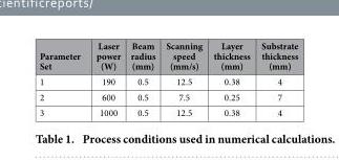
<table><thead><tr><td>Parameter Set</td><td>Laser power (W)</td><td>Beam radius (mm)</td><td>Scanning speed (mm/s)</td><td>Layer thickness (mm)</td><td>Substrate thickness (mm)</td></tr></thead><tbody><tr><td>1</td><td>190</td><td>0.5</td><td>12.5</td><td>0.38</td><td>4</td></tr><tr><td>2</td><td>600</td><td>0.5</td><td>7.5</td><td>0.25</td><td>7</td></tr><tr><td>3</td><td>1000</td><td>0.5</td><td>12.5</td><td>0.38</td><td>4</td></tr></tbody></table>